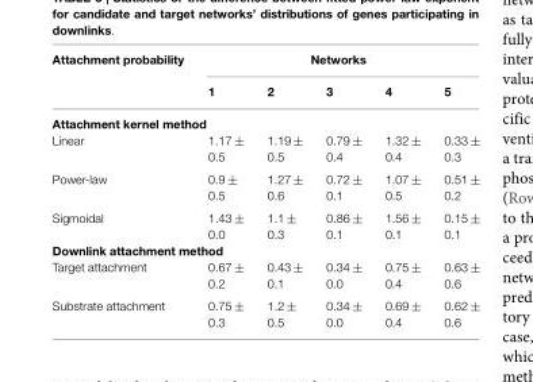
<table><thead><tr><td rowspan="2">Attachment probability</td><td colspan="5">Networks</td></tr><tr><td>1</td><td>2</td><td>3</td><td>4</td><td>5</td></tr></thead><tbody><tr><td colspan="6">Attachment kernel method</td></tr><tr><td>Linear</td><td>1.17 ± 0.5</td><td>1.19 ± 0.5</td><td>0.79 ± 0.4</td><td>1.32 ± 0.4</td><td>0.33 ± 0.3</td></tr><tr><td>Power-law</td><td>0.9 ± 0.5</td><td>1.27 ± 0.6</td><td>0.72 ± 0.1</td><td>1.07 ± 0.5</td><td>0.51 ± 0.2</td></tr><tr><td>Sigmoidal</td><td>1.43 ± 0.0</td><td>1.1 ± 0.3</td><td>0.86 ± 0.1</td><td>1.56 ± 0.1</td><td>0.15 ± 0.1</td></tr><tr><td colspan="6">Downlink attachment method</td></tr><tr><td>Target attachment</td><td>0.67 ± 0.2</td><td>0.43 ± 0.1</td><td>0.34 ± 0.0</td><td>0.75 ± 0.4</td><td>0.63 ± 0.6</td></tr><tr><td>Substrate attachment</td><td>0.75 ± 0.3</td><td>1.2 ± 0.5</td><td>0.34 ± 0.0</td><td>0.69 ± 0.4</td><td>0.62 ± 0.6</td></tr></tbody></table>